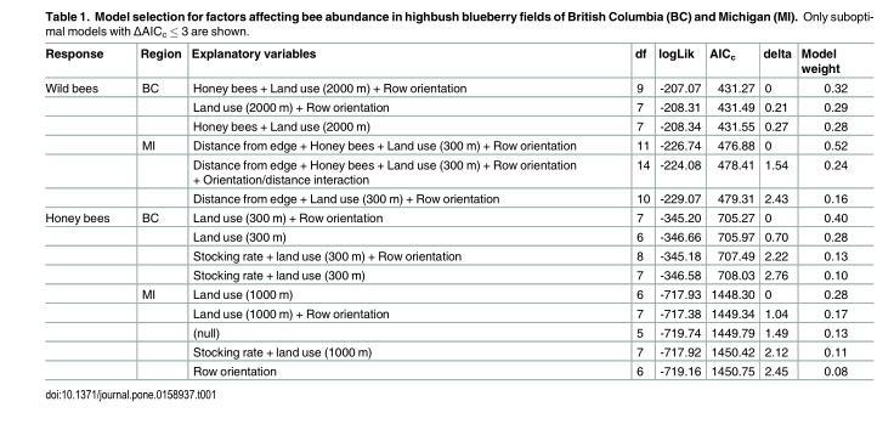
<table><thead><tr><td>Response</td><td>Region</td><td>Explanatory variables</td><td>df</td><td>logLik</td><td>AIC<sub>c</sub></td><td>delta</td><td>Model weight</td></tr></thead><tbody><tr><td rowspan="6">Wild bees</td><td>BC</td><td>Honey bees + Land use (2000 m) + Row orientation</td><td>9</td><td>-207.07</td><td>431.27</td><td>0</td><td>0.32</td></tr><tr><td></td><td>Land use (2000 m) + Row orientation</td><td>7</td><td>-208.31</td><td>431.49</td><td>0.21</td><td>0.29</td></tr><tr><td></td><td>Honey bees + Land use (2000 m)</td><td>7</td><td>-208.34</td><td>431.55</td><td>0.27</td><td>0.28</td></tr><tr><td>MI</td><td>Distance from edge + Honey bees + Land use (300 m) + Row orientation</td><td>11</td><td>-226.74</td><td>476.88</td><td>0</td><td>0.52</td></tr><tr><td></td><td>Distance from edge + Honey bees + Land use (300 m) + Row orientation + Orientation/distance interaction</td><td>14</td><td>-224.08</td><td>478.41</td><td>1.54</td><td>0.24</td></tr><tr><td></td><td>Distance from edge + Land use (300 m) + Row orientation</td><td>10</td><td>-229.07</td><td>479.31</td><td>2.43</td><td>0.16</td></tr><tr><td rowspan="9">Honey bees</td><td>BC</td><td>Land use (300 m) + Row orientation</td><td>7</td><td>-345.20</td><td>705.27</td><td>0</td><td>0.40</td></tr><tr><td></td><td>Land use (300 m)</td><td>6</td><td>-346.66</td><td>705.97</td><td>0.70</td><td>0.28</td></tr><tr><td></td><td>Stocking rate + land use (300 m) + Row orientation</td><td>8</td><td>-345.18</td><td>707.49</td><td>2.22</td><td>0.13</td></tr><tr><td></td><td>Stocking rate + land use (300 m)</td><td>7</td><td>-346.58</td><td>708.03</td><td>2.76</td><td>0.10</td></tr><tr><td>MI</td><td>Land use (1000 m)</td><td>6</td><td>-717.93</td><td>1448.30</td><td>0</td><td>0.28</td></tr><tr><td></td><td>Land use (1000 m) + Row orientation</td><td>7</td><td>-717.38</td><td>1449.34</td><td>1.04</td><td>0.17</td></tr><tr><td></td><td>(null)</td><td>5</td><td>-719.74</td><td>1449.79</td><td>1.49</td><td>0.13</td></tr><tr><td></td><td>Stocking rate + land use (1000 m)</td><td>7</td><td>-717.92</td><td>1450.42</td><td>2.12</td><td>0.11</td></tr><tr><td></td><td>Row orientation</td><td>6</td><td>-719.16</td><td>1450.75</td><td>2.45</td><td>0.08</td></tr></tbody></table>